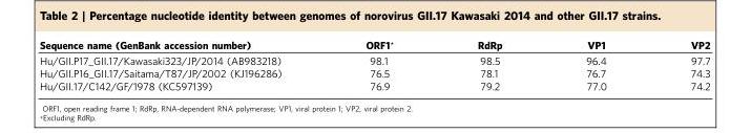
<table><thead><tr><td>Sequence name (GenBank accession number)</td><td>ORF1*</td><td>RdRp</td><td>VP1</td><td>VP2</td></tr></thead><tbody><tr><td>Hu/GII.P17_GII.17/Kawasaki323/JP/2014 (AB983218)</td><td>98.1</td><td>98.5</td><td>96.4</td><td>97.7</td></tr><tr><td>Hu/GII.P16_GII.17/Saitama/T87/JP/2002 (KJ196286)</td><td>76.5</td><td>78.1</td><td>76.7</td><td>74.3</td></tr><tr><td>Hu/GII.17/C142/GF/1978 (KC597139)</td><td>76.9</td><td>79.2</td><td>77.0</td><td>74.2</td></tr></tbody></table>